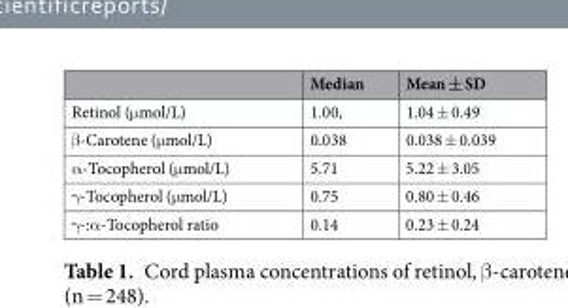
<table><thead><tr><td></td><td>Median</td><td>Mean ± SD</td></tr></thead><tbody><tr><td>Retinol (μmol/L)</td><td>1.00,</td><td>1.04 ± 0.49</td></tr><tr><td>β-Carotene (μmol/L)</td><td>0.038</td><td>0.038 ± 0.039</td></tr><tr><td>α-Tocopherol (μmol/L)</td><td>5.71</td><td>5.22 ± 3.05</td></tr><tr><td>γ-Tocopherol (μmol/L)</td><td>0.75</td><td>0.80 ± 0.46</td></tr><tr><td>γ-:α-Tocopherol ratio</td><td>0.14</td><td>0.23 ± 0.24</td></tr></tbody></table>